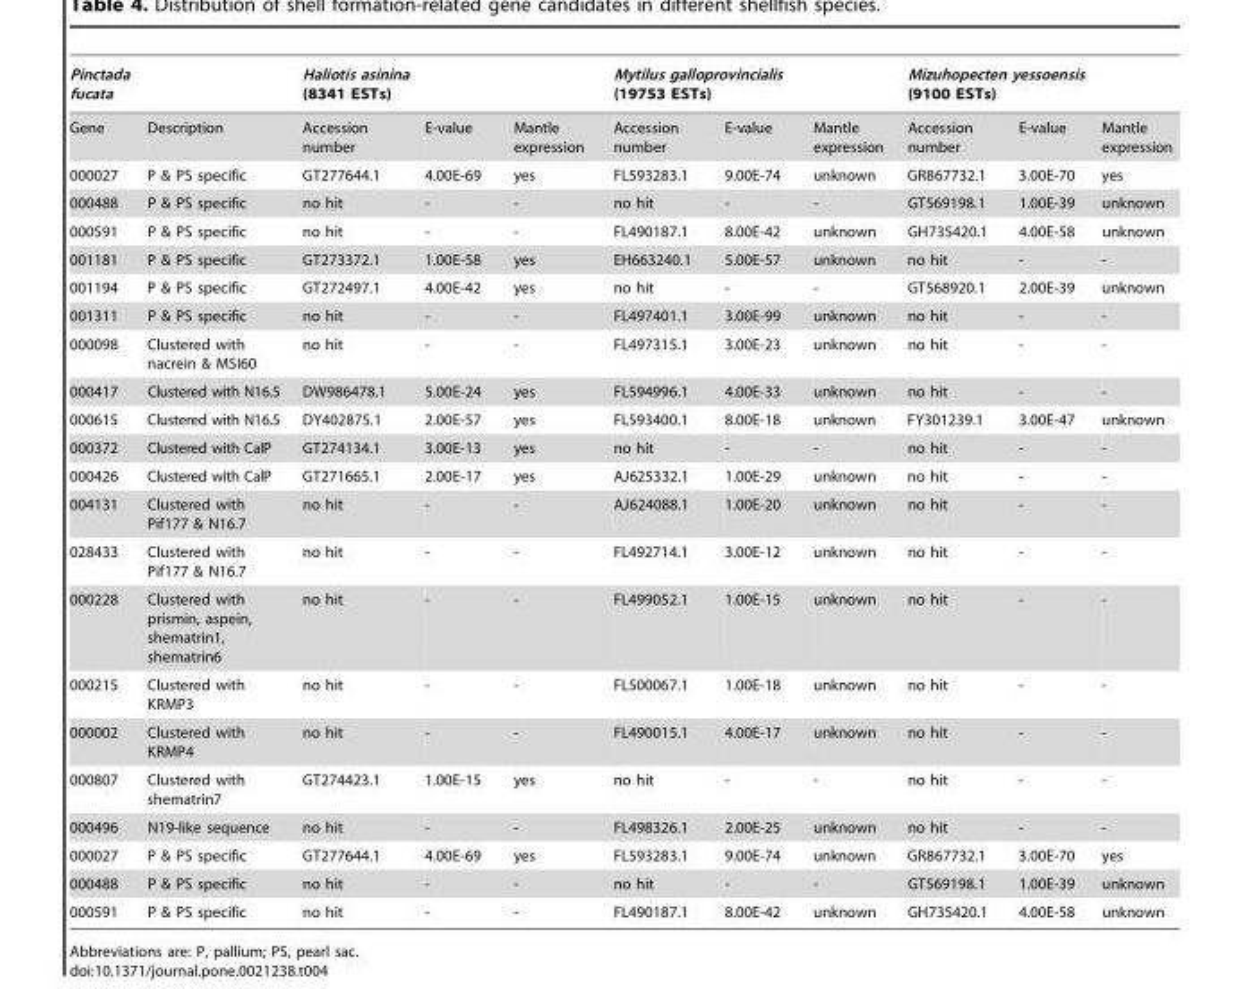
<table><thead><tr><td colspan="2">Pinctada fucata</td><td colspan="3">Haliotis asinina (8341 ESTs)</td><td colspan="3">Mytilus galloprovincialis (19753 ESTs)</td><td colspan="3">Mizuhopecten yessoensis (9100 ESTs)</td></tr><tr><td>Gene</td><td>Description</td><td>Accession number</td><td>E-value</td><td>Mantle expression</td><td>Accession number</td><td>E-value</td><td>Mantle expression</td><td>Accession number</td><td>E-value</td><td>Mantle expression</td></tr></thead><tbody><tr><td>000027</td><td>P &amp; PS specific</td><td>GT277644.1</td><td>4.00E-69</td><td>yes</td><td>FL593283.1</td><td>9.00E-74</td><td>unknown</td><td>GR867732.1</td><td>3.00E-70</td><td>yes</td></tr><tr><td>000488</td><td>P &amp; PS specific</td><td>no hit</td><td>-</td><td>-</td><td>no hit</td><td>-</td><td>-</td><td>GT569198.1</td><td>1.00E-39</td><td>unknown</td></tr><tr><td>000591</td><td>P &amp; PS specific</td><td>no hit</td><td>-</td><td>-</td><td>FL490187.1</td><td>8.00E-42</td><td>unknown</td><td>GH735420.1</td><td>4.00E-58</td><td>unknown</td></tr><tr><td>001181</td><td>P &amp; PS specific</td><td>GT273372.1</td><td>1.00E-58</td><td>yes</td><td>EH663240.1</td><td>5.00E-57</td><td>unknown</td><td>no hit</td><td>-</td><td>-</td></tr><tr><td>001194</td><td>P &amp; PS specific</td><td>GT272497.1</td><td>4.00E-42</td><td>yes</td><td>no hit</td><td>-</td><td>-</td><td>GT568920.1</td><td>2.00E-39</td><td>unknown</td></tr><tr><td>001311</td><td>P &amp; PS specific</td><td>no hit</td><td>-</td><td>-</td><td>FL497401.1</td><td>3.00E-99</td><td>unknown</td><td>no hit</td><td>-</td><td>-</td></tr><tr><td>000098</td><td>Clustered with nacrein &amp; MSI60</td><td>no hit</td><td>-</td><td>-</td><td>FL497315.1</td><td>3.00E-23</td><td>unknown</td><td>no hit</td><td>-</td><td>-</td></tr><tr><td>000417</td><td>Clustered with N16.5</td><td>DW986478.1</td><td>5.00E-24</td><td>yes</td><td>FL594996.1</td><td>4.00E-33</td><td>unknown</td><td>no hit</td><td>-</td><td>-</td></tr><tr><td>000615</td><td>Clustered with N16.5</td><td>DY402875.1</td><td>2.00E-57</td><td>yes</td><td>FL593400.1</td><td>8.00E-18</td><td>unknown</td><td>FY301239.1</td><td>3.00E-47</td><td>unknown</td></tr><tr><td>000372</td><td>Clustered with CalP</td><td>GT274134.1</td><td>3.00E-13</td><td>yes</td><td>no hit</td><td>-</td><td>-</td><td>no hit</td><td>-</td><td>-</td></tr><tr><td>000426</td><td>Clustered with CalP</td><td>GT271665.1</td><td>2.00E-17</td><td>yes</td><td>AJ625332.1</td><td>1.00E-29</td><td>unknown</td><td>no hit</td><td>-</td><td>-</td></tr><tr><td>004131</td><td>Clustered with Pif177 &amp; N16.7</td><td>no hit</td><td>-</td><td>-</td><td>AJ624088.1</td><td>1.00E-20</td><td>unknown</td><td>no hit</td><td>-</td><td>-</td></tr><tr><td>028433</td><td>Clustered with Pif177 &amp; N16.7</td><td>no hit</td><td>-</td><td>-</td><td>FL492714.1</td><td>3.00E-12</td><td>unknown</td><td>no hit</td><td>-</td><td>-</td></tr><tr><td>000228</td><td>Clustered with prismin, aspein, shematrin1, shematrin6</td><td>no hit</td><td>-</td><td>-</td><td>FL499052.1</td><td>1.00E-15</td><td>unknown</td><td>no hit</td><td>-</td><td>-</td></tr><tr><td>000215</td><td>Clustered with KRMP3</td><td>no hit</td><td>-</td><td>-</td><td>FL500067.1</td><td>1.00E-18</td><td>unknown</td><td>no hit</td><td>-</td><td>-</td></tr><tr><td>000002</td><td>Clustered with KRMP4</td><td>no hit</td><td>-</td><td>-</td><td>FL490015.1</td><td>4.00E-17</td><td>unknown</td><td>no hit</td><td>-</td><td>-</td></tr><tr><td>000807</td><td>Clustered with shematrin7</td><td>GT274423.1</td><td>1.00E-15</td><td>yes</td><td>no hit</td><td>-</td><td>-</td><td>no hit</td><td>-</td><td>-</td></tr><tr><td>000496</td><td>N19-like sequence</td><td>no hit</td><td>-</td><td>-</td><td>FL498326.1</td><td>2.00E-25</td><td>unknown</td><td>no hit</td><td>-</td><td>-</td></tr><tr><td>000027</td><td>P &amp; PS specific</td><td>GT277644.1</td><td>4.00E-69</td><td>yes</td><td>FL593283.1</td><td>9.00E-74</td><td>unknown</td><td>GR867732.1</td><td>3.00E-70</td><td>yes</td></tr><tr><td>000488</td><td>P &amp; PS specific</td><td>no hit</td><td>-</td><td>-</td><td>no hit</td><td>-</td><td>-</td><td>GT569198.1</td><td>1.00E-39</td><td>unknown</td></tr><tr><td>000591</td><td>P &amp; PS specific</td><td>no hit</td><td>-</td><td>-</td><td>FL490187.1</td><td>8.00E-42</td><td>unknown</td><td>GH735420.1</td><td>4.00E-58</td><td>unknown</td></tr></tbody></table>